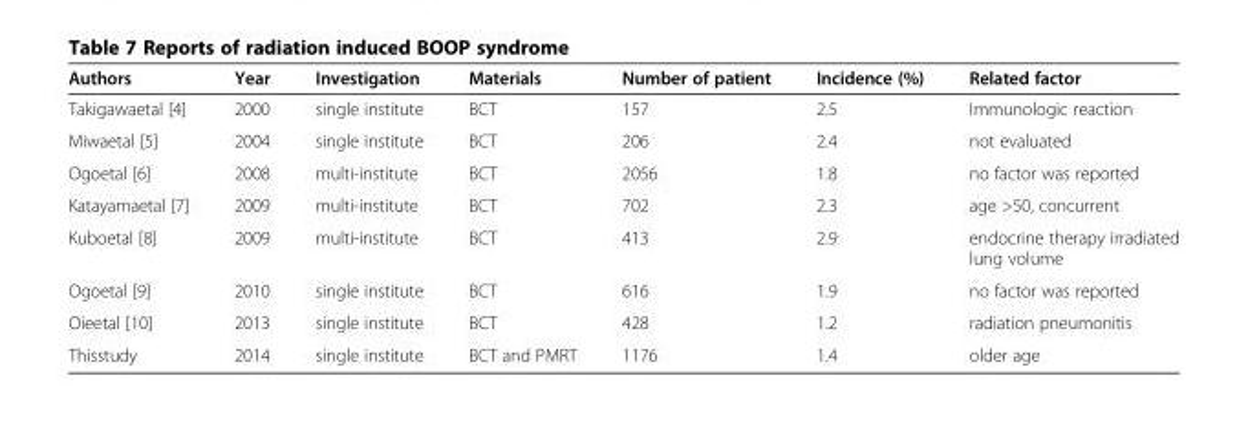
<table><thead><tr><td>Authors</td><td>Year</td><td>Investigation</td><td>Materials</td><td>Number of patient</td><td>Incidence (%)</td><td>Related factor</td></tr></thead><tbody><tr><td>Takigawaetal [4]</td><td>2000</td><td>single institute</td><td>BCT</td><td>157</td><td>2.5</td><td>Immunologic reaction</td></tr><tr><td>Miwaetal [5]</td><td>2004</td><td>single institute</td><td>BCT</td><td>206</td><td>2.4</td><td>not evaluated</td></tr><tr><td>Ogoetal [6]</td><td>2008</td><td>multi-institute</td><td>BCT</td><td>2056</td><td>1.8</td><td>no factor was reported</td></tr><tr><td>Katayamaetal [7]</td><td>2009</td><td>multi-institute</td><td>BCT</td><td>702</td><td>2.3</td><td>age &gt;50, concurrent</td></tr><tr><td>Kuboetal [8]</td><td>2009</td><td>multi-institute</td><td>BCT</td><td>413</td><td>2.9</td><td>endocrine therapy irradiated lung volume</td></tr><tr><td>Ogoetal [9]</td><td>2010</td><td>single institute</td><td>BCT</td><td>616</td><td>1.9</td><td>no factor was reported</td></tr><tr><td>Oieetal [10]</td><td>2013</td><td>single institute</td><td>BCT</td><td>428</td><td>1.2</td><td>radiation pneumonitis</td></tr><tr><td>Thisstudy</td><td>2014</td><td>single institute</td><td>BCT and PMRT</td><td>1176</td><td>1.4</td><td>older age</td></tr></tbody></table>